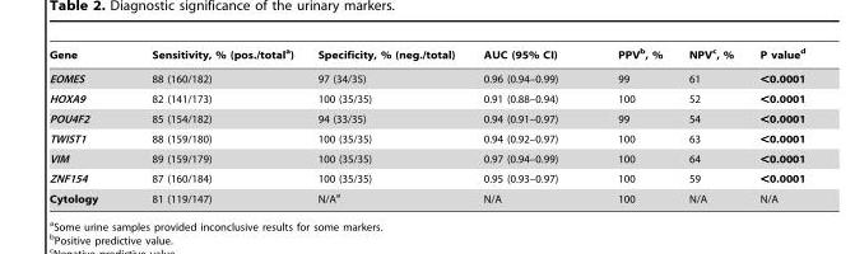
<table><thead><tr><td>Gene</td><td>Sensitivity, % (pos./total<sup>a</sup>)</td><td>Specificity, % (neg./total)</td><td>AUC (95% CI)</td><td>PPV<sup>b</sup>, %</td><td>NPV<sup>c</sup>, %</td><td>P value<sup>d</sup></td></tr></thead><tbody><tr><td>EOMES</td><td>88 (160/182)</td><td>97 (34/35)</td><td>0.96 (0.94–0.99)</td><td>99</td><td>61</td><td>&lt;0.0001</td></tr><tr><td>HOXA9</td><td>82 (141/173)</td><td>100 (35/35)</td><td>0.91 (0.88–0.94)</td><td>100</td><td>52</td><td>&lt;0.0001</td></tr><tr><td>POU4F2</td><td>85 (154/182)</td><td>94 (33/35)</td><td>0.94 (0.91–0.97)</td><td>99</td><td>54</td><td>&lt;0.0001</td></tr><tr><td>TWIST1</td><td>88 (159/180)</td><td>100 (35/35)</td><td>0.94 (0.92–0.97)</td><td>100</td><td>63</td><td>&lt;0.0001</td></tr><tr><td>VIM</td><td>89 (159/179)</td><td>100 (35/35)</td><td>0.97 (0.94–0.99)</td><td>100</td><td>64</td><td>&lt;0.0001</td></tr><tr><td>ZNF154</td><td>87 (160/184)</td><td>100 (35/35)</td><td>0.95 (0.93–0.97)</td><td>100</td><td>59</td><td>&lt;0.0001</td></tr><tr><td>Cytology</td><td>81 (119/147)</td><td>N/A<sup>e</sup></td><td>N/A</td><td>100</td><td>N/A</td><td>N/A</td></tr></tbody></table>